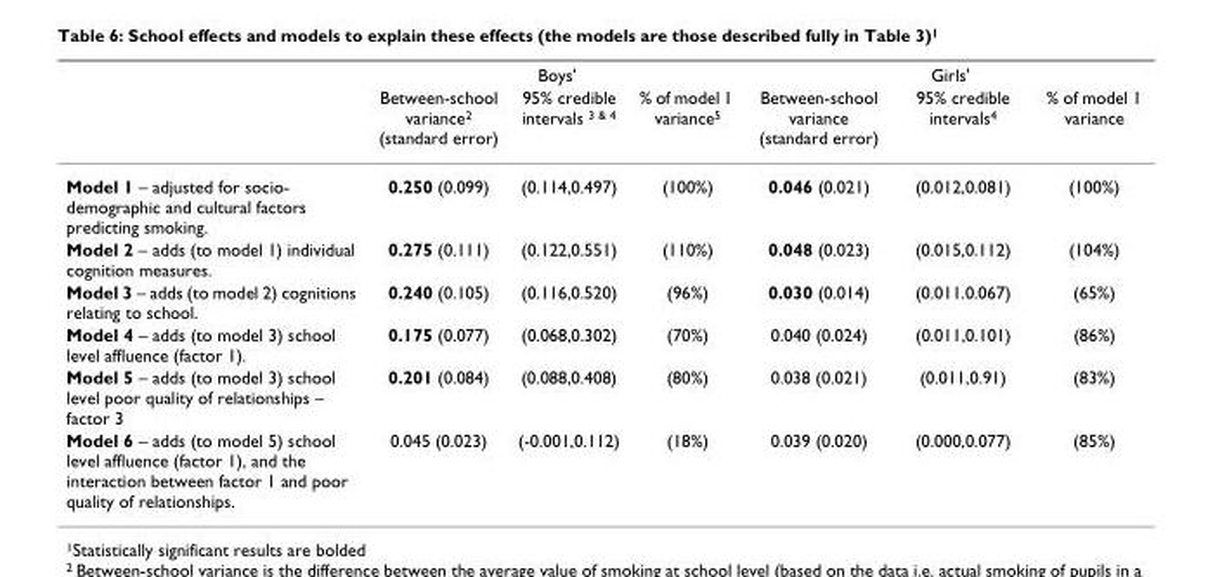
<table><thead><tr><td rowspan="2"></td><td colspan="3">Boys&#x27;</td><td colspan="3">Girls&#x27;</td></tr><tr><td>Between-school variance<sup>2</sup> (standard error)</td><td>95% credible intervals <sup>3 &amp; 4</sup></td><td>% of model 1 variance<sup>5</sup></td><td>Between-school variance (standard error)</td><td>95% credible intervals<sup>4</sup></td><td>% of model 1 variance</td></tr></thead><tbody><tr><td>Model 1 – adjusted for socio- demographic and cultural factors predicting smoking.</td><td>0.250 (0.099)</td><td>(0.114,0.497)</td><td>(100%)</td><td>0.046 (0.021)</td><td>(0.012,0.081)</td><td>(100%)</td></tr><tr><td>Model 2 – adds (to model 1) individual cognition measures.</td><td>0.275 (0.111)</td><td>(0.122,0.551)</td><td>(110%)</td><td>0.048 (0.023)</td><td>(0.015,0.112)</td><td>(104%)</td></tr><tr><td>Model 3 – adds (to model 2) cognitions relating to school.</td><td>0.240 (0.105)</td><td>(0.116,0.520)</td><td>(96%)</td><td>0.030 (0.014)</td><td>(0.011.0.067)</td><td>(65%)</td></tr><tr><td>Model 4 – adds (to model 3) school level affluence (factor 1).</td><td>0.175 (0.077)</td><td>(0.068,0.302)</td><td>(70%)</td><td>0.040 (0.024)</td><td>(0.011,0.101)</td><td>(86%)</td></tr><tr><td>Model 5 – adds (to model 3) school level poor quality of relationships – factor 3</td><td>0.201 (0.084)</td><td>(0.088,0.408)</td><td>(80%)</td><td>0.038 (0.021)</td><td>(0.011,0.91)</td><td>(83%)</td></tr><tr><td>Model 6 – adds (to model 5) school level affluence (factor 1), and the interaction between factor 1 and poor quality of relationships.</td><td>0.045 (0.023)</td><td>(-0.001,0.112)</td><td>(18%)</td><td>0.039 (0.020)</td><td>(0.000,0.077)</td><td>(85%)</td></tr></tbody></table>